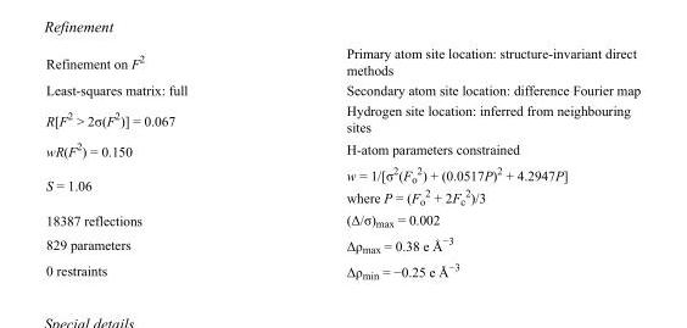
<table><tbody><tr><td>Refinement on F<sup>2</sup></td><td>Primary atom site location: structure-invariant direct methods</td></tr><tr><td>Least-squares matrix: full</td><td>Secondary atom site location: difference Fourier map</td></tr><tr><td>R[F<sup>2</sup> &gt; 2σ(F<sup>2</sup>)] = 0.067</td><td>Hydrogen site location: inferred from neighbouring sites</td></tr><tr><td>wR(F<sup>2</sup>) = 0.150</td><td>H-atom parameters constrained</td></tr><tr><td>S = 1.06</td><td>w = 1/[σ<sup>2</sup>(F<sub>o</sub> <sup>2</sup>) + (0.0517P)<sup>2</sup> + 4.2947P] where P = (F<sub>o</sub> <sup>2</sup> + 2F<sub>c</sub> <sup>2</sup>)/3</td></tr><tr><td>18387 reflections</td><td>(Δ/σ)<sub>max</sub> = 0.002</td></tr><tr><td>829 parameters</td><td>Δρ<sub>max</sub> = 0.38 e Å<sup>−3</sup></td></tr><tr><td>0 restraints</td><td>Δρ<sub>min</sub> = −0.25 e Å<sup>−3</sup></td></tr></tbody></table>